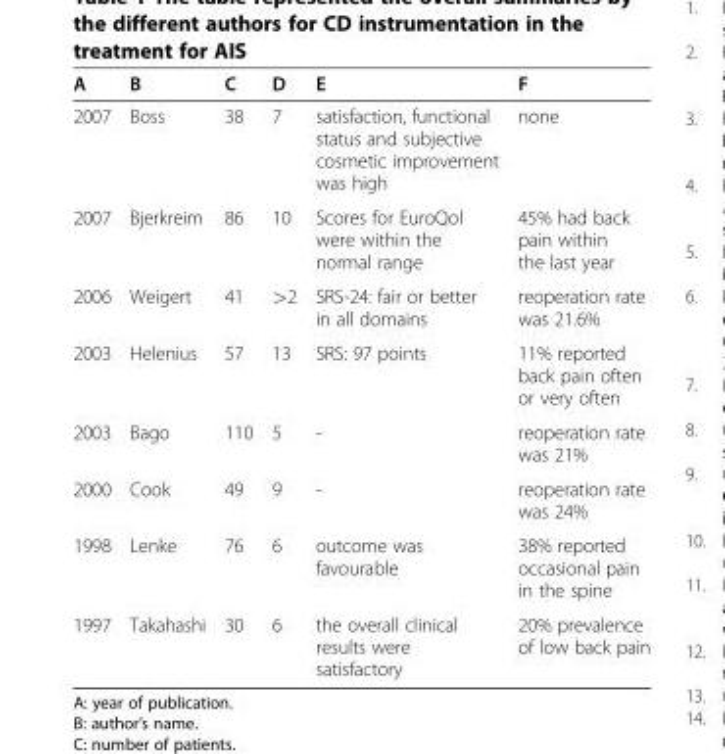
<table><thead><tr><td>A</td><td>B</td><td>C</td><td>D</td><td>E</td><td>F</td></tr></thead><tbody><tr><td>2007</td><td>Boss</td><td>38</td><td>7</td><td>satisfaction, functional status and subjective cosmetic improvement was high</td><td>none</td></tr><tr><td>2007</td><td>Bjerkreim</td><td>86</td><td>10</td><td>Scores for EuroQol were within the normal range</td><td>45% had back pain within the last year</td></tr><tr><td>2006</td><td>Weigert</td><td>41</td><td>&gt;2</td><td>SRS-24: fair or better in all domains</td><td>reoperation rate was 21.6%</td></tr><tr><td>2003</td><td>Helenius</td><td>57</td><td>13</td><td>SRS: 97 points</td><td>11% reported back pain often or very often</td></tr><tr><td>2003</td><td>Bago</td><td>110</td><td>5</td><td>-</td><td>reoperation rate was 21%</td></tr><tr><td>2000</td><td>Cook</td><td>49</td><td>9</td><td>-</td><td>reoperation rate was 24%</td></tr><tr><td>1998</td><td>Lenke</td><td>76</td><td>6</td><td>outcome was favourable</td><td>38% reported occasional pain in the spine</td></tr><tr><td>1997</td><td>Takahashi</td><td>30</td><td>6</td><td>the overall clinical results were satisfactory</td><td>20% prevalence of low back pain</td></tr></tbody></table>